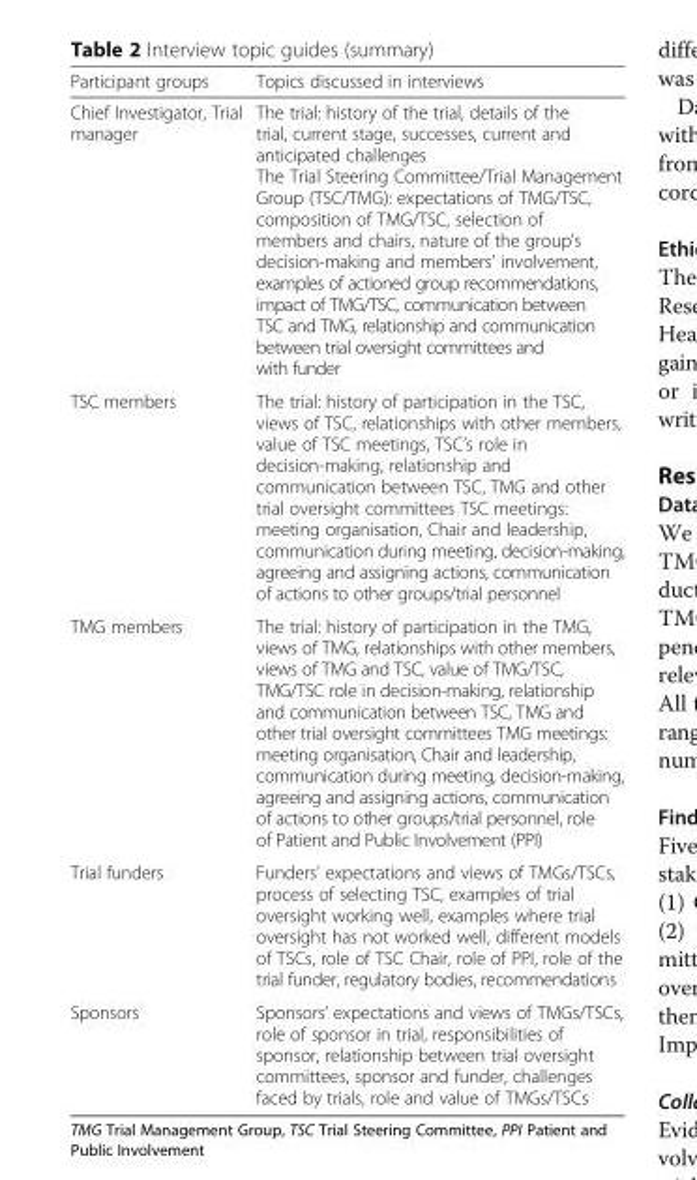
<table><thead><tr><td>Participant groups</td><td>Topics discussed in interviews</td></tr></thead><tbody><tr><td>Chief Investigator, Trial manager</td><td>The trial: history of the trial, details of the trial, current stage, successes, current and anticipated challenges The Trial Steering Committee/Trial Management Group (TSC/TMG): expectations of TMG/TSC, composition of TMG/TSC, selection of members and chairs, nature of the group’s decision-making and members’ involvement, examples of actioned group recommendations, impact of TMG/TSC, communication between TSC and TMG, relationship and communication between trial oversight committees and with funder</td></tr><tr><td>TSC members</td><td>The trial: history of participation in the TSC, views of TSC, relationships with other members, value of TSC meetings, TSC’s role in decision-making, relationship and communication between TSC, TMG and other trial oversight committees TSC meetings: meeting organisation, Chair and leadership, communication during meeting, decision-making, agreeing and assigning actions, communication of actions to other groups/trial personnel</td></tr><tr><td>TMG members</td><td>The trial: history of participation in the TMG, views of TMG, relationships with other members, views of TMG and TSC, value of TMG/TSC, TMG/TSC role in decision-making, relationship and communication between TSC, TMG and other trial oversight committees TMG meetings: meeting organisation, Chair and leadership, communication during meeting, decision-making, agreeing and assigning actions, communication of actions to other groups/trial personnel, role of Patient and Public Involvement (PPI)</td></tr><tr><td>Trial funders</td><td>Funders’ expectations and views of TMGs/TSCs, process of selecting TSC, examples of trial oversight working well, examples where trial oversight has not worked well, different models of TSCs, role of TSC Chair, role of PPI, role of the trial funder, regulatory bodies, recommendations</td></tr><tr><td>Sponsors</td><td>Sponsors’ expectations and views of TMGs/TSCs, role of sponsor in trial, responsibilities of sponsor, relationship between trial oversight committees, sponsor and funder, challenges faced by trials, role and value of TMGs/TSCs</td></tr></tbody></table>